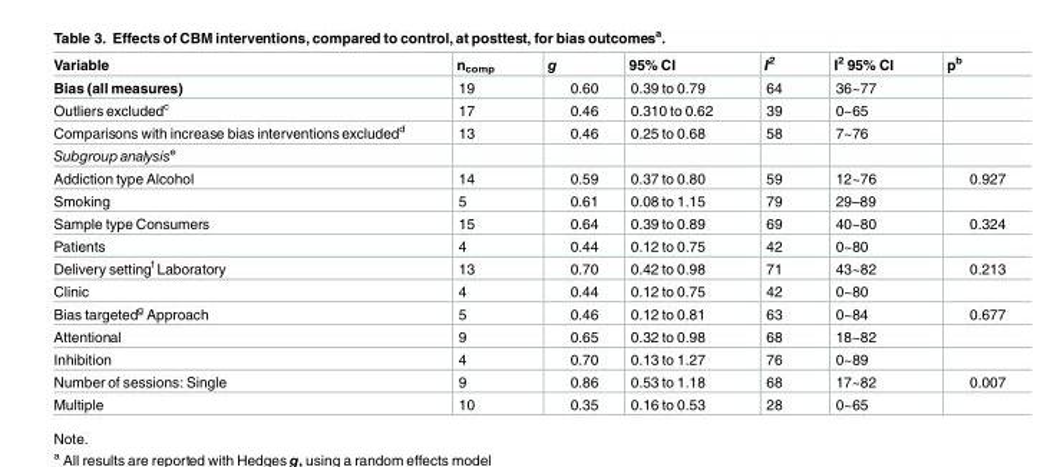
<table><thead><tr><td>Variable</td><td>n<sub>comp</sub></td><td>g</td><td>95% CI</td><td>I<sup>2</sup></td><td>I<sup>2</sup> 95% CI</td><td>p<sup>b</sup></td></tr></thead><tbody><tr><td>Bias (all measures)</td><td>19</td><td>0.60</td><td>0.39 to 0.79</td><td>64</td><td>36~77</td><td></td></tr><tr><td>Outliers excluded<sup>c</sup></td><td>17</td><td>0.46</td><td>0.310 to 0.62</td><td>39</td><td>0~65</td><td></td></tr><tr><td>Comparisons with increase bias interventions excluded<sup>d</sup></td><td>13</td><td>0.46</td><td>0.25 to 0.68</td><td>58</td><td>7~76</td><td></td></tr><tr><td colspan="7">Subgroup analysis<sup>e</sup></td></tr><tr><td>Addiction type Alcohol</td><td>14</td><td>0.59</td><td>0.37 to 0.80</td><td>59</td><td>12~76</td><td>0.927</td></tr><tr><td>Smoking</td><td>5</td><td>0.61</td><td>0.08 to 1.15</td><td>79</td><td>29–89</td><td></td></tr><tr><td>Sample type Consumers</td><td>15</td><td>0.64</td><td>0.39 to 0.89</td><td>69</td><td>40~80</td><td>0.324</td></tr><tr><td>Patients</td><td>4</td><td>0.44</td><td>0.12 to 0.75</td><td>42</td><td>0~80</td><td></td></tr><tr><td>Delivery setting<sup>f</sup> Laboratory</td><td>13</td><td>0.70</td><td>0.42 to 0.98</td><td>71</td><td>43~82</td><td>0.213</td></tr><tr><td>Clinic</td><td>4</td><td>0.44</td><td>0.12 to 0.75</td><td>42</td><td>0~80</td><td></td></tr><tr><td>Bias targeted<sup>g</sup> Approach</td><td>5</td><td>0.46</td><td>0.12 to 0.81</td><td>63</td><td>0~84</td><td>0.677</td></tr><tr><td>Attentional</td><td>9</td><td>0.65</td><td>0.32 to 0.98</td><td>68</td><td>18~82</td><td></td></tr><tr><td>Inhibition</td><td>4</td><td>0.70</td><td>0.13 to 1.27</td><td>76</td><td>0~89</td><td></td></tr><tr><td>Number of sessions: Single</td><td>9</td><td>0.86</td><td>0.53 to 1.18</td><td>68</td><td>17~82</td><td>0.007</td></tr><tr><td>Multiple</td><td>10</td><td>0.35</td><td>0.16 to 0.53</td><td>28</td><td>0~65</td><td></td></tr></tbody></table>